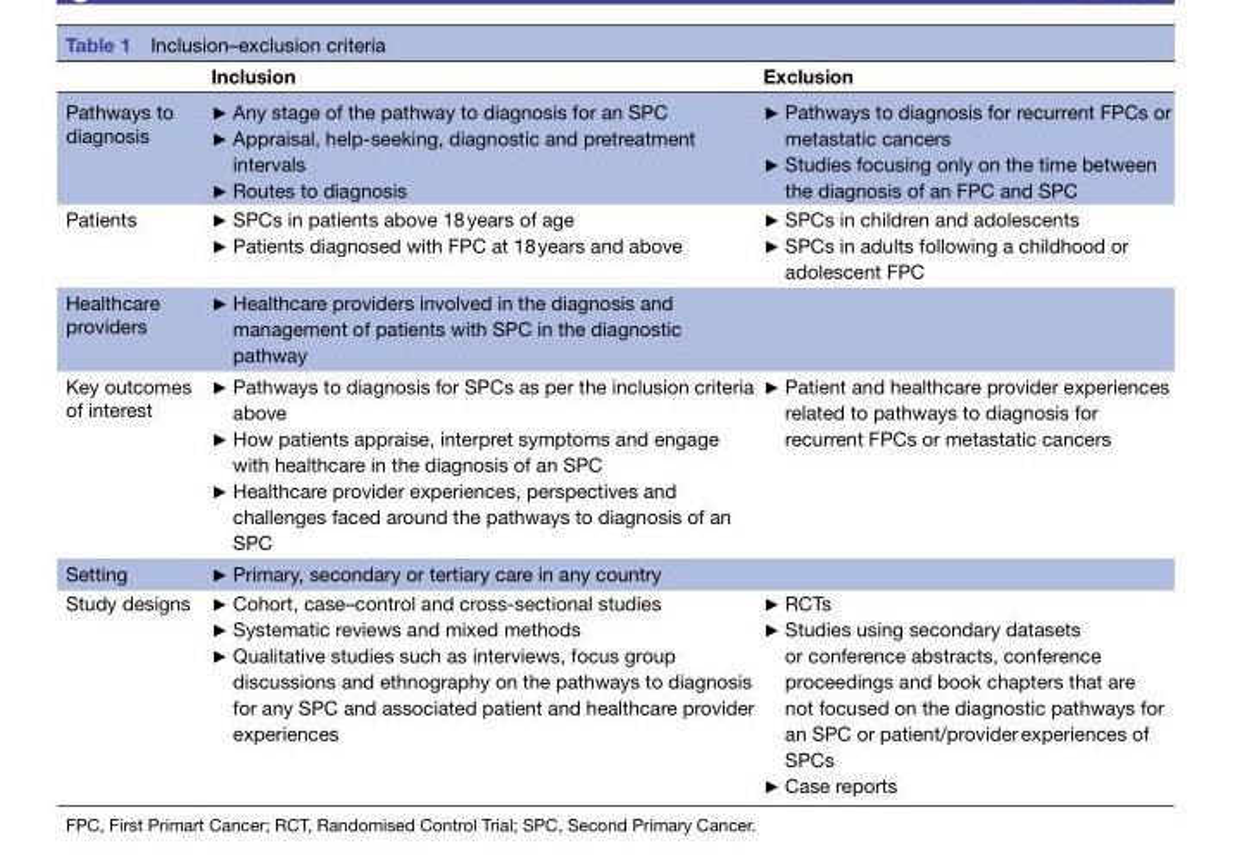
<table><thead><tr><td></td><td>Inclusion</td><td>Exclusion</td></tr></thead><tbody><tr><td>Pathways to diagnosis</td><td>► Any stage of the pathway to diagnosis for an SPC ► Appraisal, help-seeking, diagnostic and pretreatment intervals ► Routes to diagnosis</td><td>► Pathways to diagnosis for recurrent FPCs or metastatic cancers ► Studies focusing only on the time between the diagnosis of an FPC and SPC</td></tr><tr><td>Patients</td><td>► SPCs in patients above 18 years of age ► Patients diagnosed with FPC at 18 years and above</td><td>► SPCs in children and adolescents ► SPCs in adults following a childhood or adolescent FPC</td></tr><tr><td>Healthcare providers</td><td>► Healthcare providers involved in the diagnosis and management of patients with SPC in the diagnostic pathway</td><td></td></tr><tr><td>Key outcomes of interest</td><td>► Pathways to diagnosis for SPCs as per the inclusion criteria above ► How patients appraise, interpret symptoms and engage with healthcare in the diagnosis of an SPC ► Healthcare provider experiences, perspectives and challenges faced around the pathways to diagnosis of an SPC</td><td>► Patient and healthcare provider experiences related to pathways to diagnosis for recurrent FPCs or metastatic cancers</td></tr><tr><td>Setting</td><td>► Primary, secondary or tertiary care in any country</td><td></td></tr><tr><td>Study designs</td><td>► Cohort, case–control and cross-sectional studies ► Systematic reviews and mixed methods ► Qualitative studies such as interviews, focus group discussions and ethnography on the pathways to diagnosis for any SPC and associated patient and healthcare provider experiences</td><td>► RCTs ► Studies using secondary datasets or conference abstracts, conference proceedings and book chapters that are not focused on the diagnostic pathways for an SPC or patient/provider experiences of SPCs ► Case reports</td></tr></tbody></table>